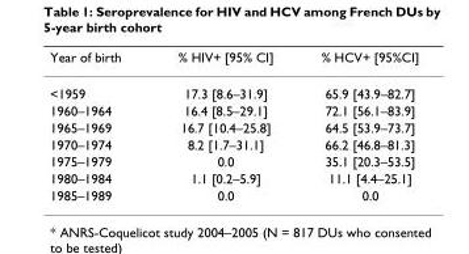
<table><thead><tr><td>Year of birth</td><td>% HIV+ [95% CI]</td><td>% HCV+ [95%CI]</td></tr></thead><tbody><tr><td>&lt;1959</td><td>17.3 [8.6–31.9]</td><td>65.9 [43.9–82.7]</td></tr><tr><td>1960–1964</td><td>16.4 [8.5–29.1]</td><td>72.1 [56.1–83.9]</td></tr><tr><td>1965–1969</td><td>16.7 [10.4–25.8]</td><td>64.5 [53.9–73.7]</td></tr><tr><td>1970–1974</td><td>8.2 [1.7–31.1]</td><td>66.2 [46.8–81.3]</td></tr><tr><td>1975–1979</td><td>0.0</td><td>35.1 [20.3–53.5]</td></tr><tr><td>1980–1984</td><td>1.1 [0.2–5.9]</td><td>11.1 [4.4–25.1]</td></tr><tr><td>1985–1989</td><td>0.0</td><td>0.0</td></tr></tbody></table>